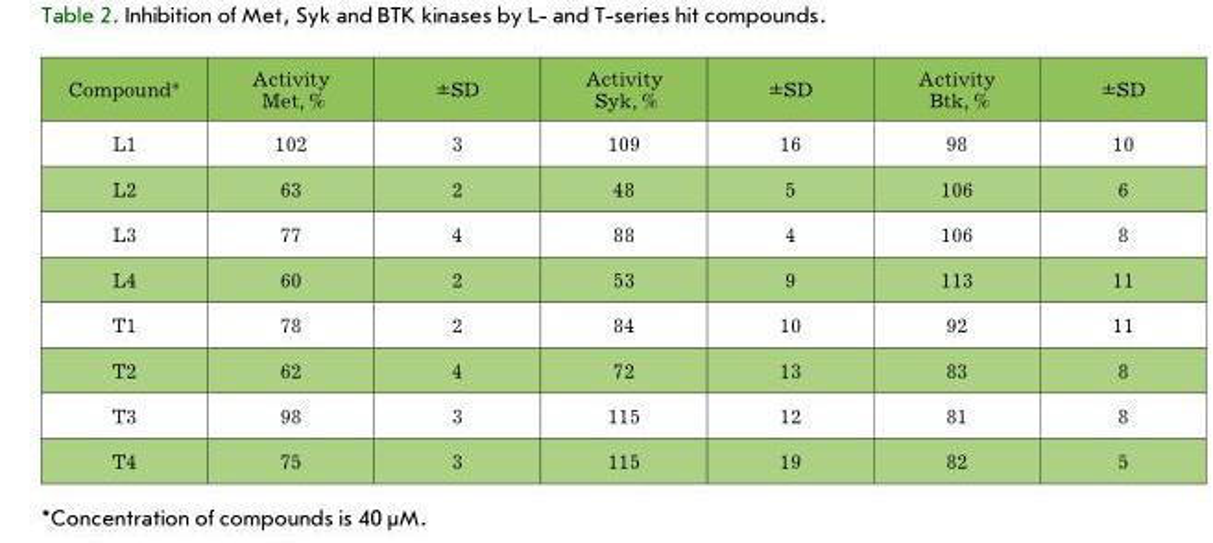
<table><thead><tr><td>compound*</td><td>Activity Met, %</td><td>±SD</td><td>Activity Syk, %</td><td>±SD</td><td>Activity Btk, %</td><td>±SD</td></tr></thead><tbody><tr><td>L1</td><td>102</td><td>3</td><td>109</td><td>16</td><td>98</td><td>10</td></tr><tr><td>L2</td><td>63</td><td>2</td><td>48</td><td>5</td><td>106</td><td>6</td></tr><tr><td>L3</td><td>77</td><td>4</td><td>88</td><td>4</td><td>106</td><td>8</td></tr><tr><td>L4</td><td>60</td><td>2</td><td>53</td><td>9</td><td>113</td><td>11</td></tr><tr><td>t1</td><td>78</td><td>2</td><td>84</td><td>10</td><td>92</td><td>11</td></tr><tr><td>t2</td><td>62</td><td>4</td><td>72</td><td>13</td><td>83</td><td>8</td></tr><tr><td>t3</td><td>98</td><td>3</td><td>115</td><td>12</td><td>81</td><td>8</td></tr><tr><td>t4</td><td>75</td><td>3</td><td>115</td><td>19</td><td>82</td><td>5</td></tr></tbody></table>